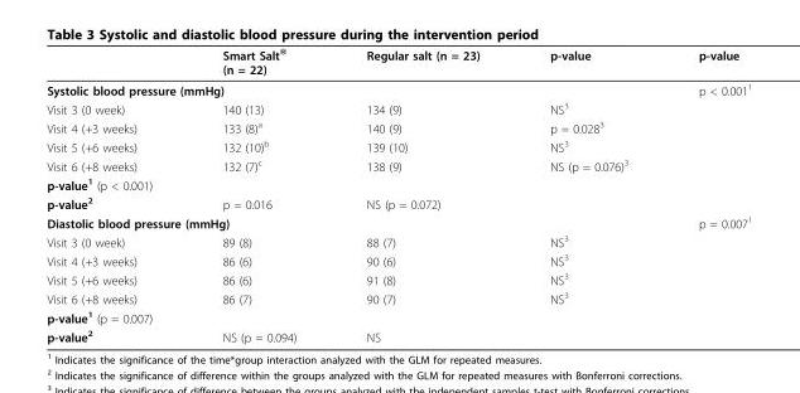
<table><thead><tr><td></td><td>Smart Salt<sup>®</sup> (n = 22)</td><td>Regular salt (n = 23)</td><td>p-value</td><td>p-value</td></tr></thead><tbody><tr><td colspan="2">Systolic blood pressure (mmHg)</td><td></td><td></td><td>p &lt; 0.001<sup>1</sup></td></tr><tr><td>Visit 3 (0 week)</td><td>140 (13)</td><td>134 (9)</td><td>NS<sup>3</sup></td><td></td></tr><tr><td>Visit 4 (+3 weeks)</td><td>133 (8)<sup>a</sup></td><td>140 (9)</td><td>p = 0.028<sup>3</sup></td><td></td></tr><tr><td>Visit 5 (+6 weeks)</td><td>132 (10)<sup>b</sup></td><td>139 (10)</td><td>NS<sup>3</sup></td><td></td></tr><tr><td>Visit 6 (+8 weeks)</td><td>132 (7)<sup>c</sup></td><td>138 (9)</td><td>NS (p = 0.076)<sup>3</sup></td><td></td></tr><tr><td colspan="5">p-value<sup>1</sup> (p &lt; 0.001)</td></tr><tr><td>p-value<sup>2</sup></td><td>p = 0.016</td><td>NS (p = 0.072)</td><td></td><td></td></tr><tr><td colspan="2">Diastolic blood pressure (mmHg)</td><td></td><td></td><td>p = 0.007<sup>1</sup></td></tr><tr><td>Visit 3 (0 week)</td><td>89 (8)</td><td>88 (7)</td><td>NS<sup>3</sup></td><td></td></tr><tr><td>Visit 4 (+3 weeks)</td><td>86 (6)</td><td>90 (6)</td><td>NS<sup>3</sup></td><td></td></tr><tr><td>Visit 5 (+6 weeks)</td><td>86 (6)</td><td>91 (8)</td><td>NS<sup>3</sup></td><td></td></tr><tr><td>Visit 6 (+8 weeks)</td><td>86 (7)</td><td>90 (7)</td><td>NS<sup>3</sup></td><td></td></tr><tr><td colspan="5">p-value<sup>1</sup> (p = 0.007)</td></tr><tr><td>p-value<sup>2</sup></td><td>NS (p = 0.094)</td><td>NS</td><td></td><td></td></tr></tbody></table>